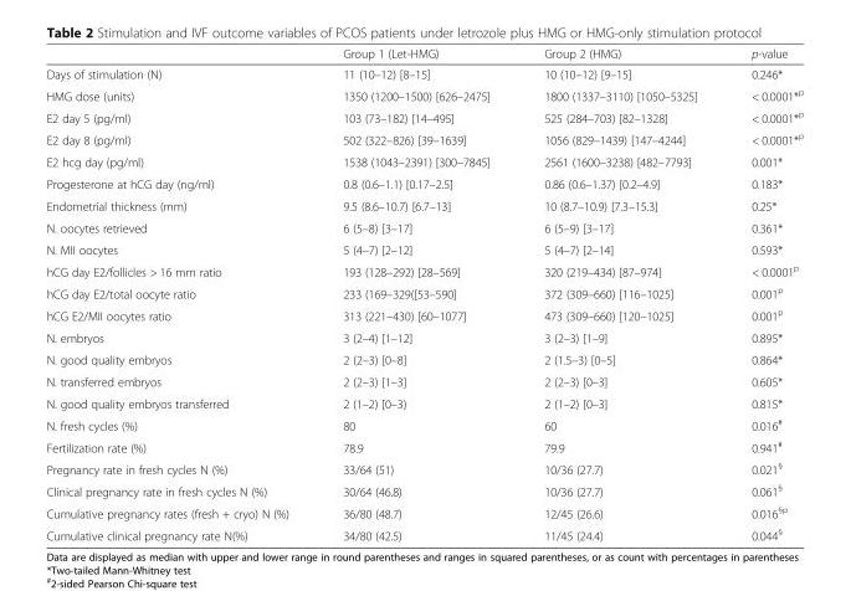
<table><thead><tr><td></td><td>Group 1 (Let-HMG)</td><td>Group 2 (HMG)</td><td>p-value</td></tr></thead><tbody><tr><td>Days of stimulation (N)</td><td>11 (10–12) [8–15]</td><td>10 (10–12) [9–15]</td><td>0.246*</td></tr><tr><td>HMG dose (units)</td><td>1350 (1200–1500) [626–2475]</td><td>1800 (1337–3110) [1050–5325]</td><td>&lt; 0.0001*<sup>p</sup></td></tr><tr><td>E2 day 5 (pg/ml)</td><td>103 (73–182) [14–495]</td><td>525 (284–703) [82–1328]</td><td>&lt; 0.0001*<sup>p</sup></td></tr><tr><td>E2 day 8 (pg/ml)</td><td>502 (322–826) [39–1639]</td><td>1056 (829–1439) [147–4244]</td><td>&lt; 0.0001*<sup>p</sup></td></tr><tr><td>E2 hcg day (pg/ml)</td><td>1538 (1043–2391) [300–7845]</td><td>2561 (1600–3238) [482–7793]</td><td>0.001*</td></tr><tr><td>Progesterone at hCG day (ng/ml)</td><td>0.8 (0.6–1.1) [0.17–2.5]</td><td>0.86 (0.6–1.37) [0.2–4.9]</td><td>0.183*</td></tr><tr><td>Endometrial thickness (mm)</td><td>9.5 (8.6–10.7) [6.7–13]</td><td>10 (8.7–10.9) [7.3–15.3]</td><td>0.25*</td></tr><tr><td>N. oocytes retrieved</td><td>6 (5–8) [3–17]</td><td>6 (5–9) [3–17]</td><td>0.361*</td></tr><tr><td>N. MII oocytes</td><td>5 (4–7) [2–12]</td><td>5 (4–7) [2–14]</td><td>0.593*</td></tr><tr><td>hCG day E2/follicles &gt; 16 mm ratio</td><td>193 (128–292) [28–569]</td><td>320 (219–434) [87–974]</td><td>&lt; 0.0001<sup>p</sup></td></tr><tr><td>hCG day E2/total oocyte ratio</td><td>233 (169–329([53–590]</td><td>372 (309–660) [116–1025]</td><td>0.001<sup>p</sup></td></tr><tr><td>hCG E2/MII oocytes ratio</td><td>313 (221–430) [60–1077]</td><td>473 (309–660) [120–1025]</td><td>0.001<sup>p</sup></td></tr><tr><td>N. embryos</td><td>3 (2–4) [1–12]</td><td>3 (2–3) [1–9]</td><td>0.895*</td></tr><tr><td>N. good quality embryos</td><td>2 (2–3) [0–8]</td><td>2 (1.5–3) [0–5]</td><td>0.864*</td></tr><tr><td>N. transferred embryos</td><td>2 (2–3) [1–3]</td><td>2 (2–3) [0–3]</td><td>0.605*</td></tr><tr><td>N. good quality embryos transferred</td><td>2 (1–2) [0–3)</td><td>2 (1–2) [0–3]</td><td>0.815*</td></tr><tr><td>N. fresh cycles (%)</td><td>80</td><td>60</td><td>0.016<sup>#</sup></td></tr><tr><td>Fertilization rate (%)</td><td>78.9</td><td>79.9</td><td>0.941<sup>#</sup></td></tr><tr><td>Pregnancy rate in fresh cycles N (%)</td><td>33/64 (51)</td><td>10/36 (27.7)</td><td>0.021<sup>§</sup></td></tr><tr><td>Clinical pregnancy rate in fresh cycles N (%)</td><td>30/64 (46.8)</td><td>10/36 (27.7)</td><td>0.061<sup>§</sup></td></tr><tr><td>Cumulative pregnancy rates (fresh + cryo) N (%)</td><td>36/80 (48.7)</td><td>12/45 (26.6)</td><td>0.016<sup>§p</sup></td></tr><tr><td>Cumulative clinical pregnancy rate N(%)</td><td>34/80 (42.5)</td><td>11/45 (24.4)</td><td>0.044<sup>§</sup></td></tr></tbody></table>